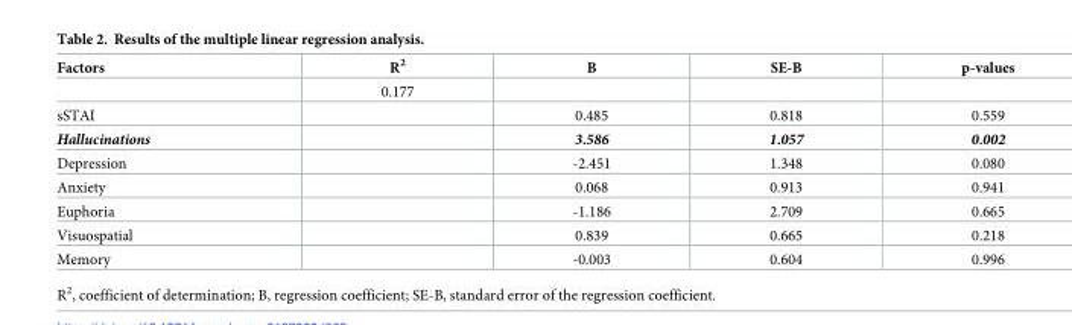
<table><thead><tr><td>Factors</td><td>R<sup>2</sup></td><td>B</td><td>SE-B</td><td>p-values</td></tr></thead><tbody><tr><td></td><td>0.177</td><td></td><td></td><td></td></tr><tr><td>sSTAI</td><td></td><td>0.485</td><td>0.818</td><td>0.559</td></tr><tr><td>Hallucinations</td><td></td><td>3.586</td><td>1.057</td><td>0.002</td></tr><tr><td>Depression</td><td></td><td>-2.451</td><td>1.348</td><td>0.080</td></tr><tr><td>Anxiety</td><td></td><td>0.068</td><td>0.913</td><td>0.941</td></tr><tr><td>Euphoria</td><td></td><td>-1.186</td><td>2.709</td><td>0.665</td></tr><tr><td>Visuospatial</td><td></td><td>0.839</td><td>0.665</td><td>0.218</td></tr><tr><td>Memory</td><td></td><td>-0.003</td><td>0.604</td><td>0.996</td></tr></tbody></table>